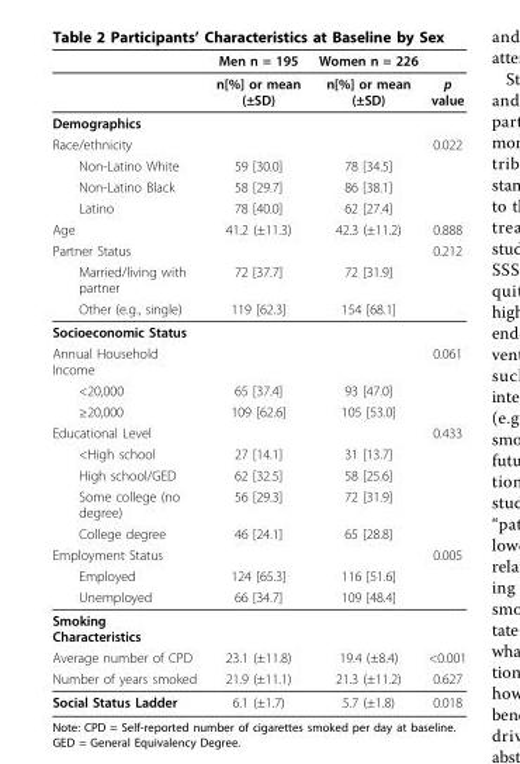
<table><thead><tr><td></td><td>Men n = 195</td><td>Women n = 226</td><td></td></tr></thead><tbody><tr><td></td><td>n[%] or mean (±SD)</td><td>n[%] or mean (±SD)</td><td>p value</td></tr><tr><td colspan="4">Demographics</td></tr><tr><td>Race/ethnicity</td><td></td><td></td><td>0.022</td></tr><tr><td>Non-Latino White</td><td>59 [30.0]</td><td>78 [34.5]</td><td></td></tr><tr><td>Non-Latino Black</td><td>58 [29.7]</td><td>86 [38.1]</td><td></td></tr><tr><td>Latino</td><td>78 [40.0]</td><td>62 [27.4]</td><td></td></tr><tr><td>Age</td><td>41.2 (±11.3)</td><td>42.3 (±11.2)</td><td>0.888</td></tr><tr><td>Partner Status</td><td></td><td></td><td>0.212</td></tr><tr><td>Married/living with partner</td><td>72 [37.7]</td><td>72 [31.9]</td><td></td></tr><tr><td>Other (e.g., single)</td><td>119 [62.3]</td><td>154 [68.1]</td><td></td></tr><tr><td colspan="4">Socioeconomic Status</td></tr><tr><td>Annual Household Income</td><td></td><td></td><td>0.061</td></tr><tr><td>&lt;20,000</td><td>65 [37.4]</td><td>93 [47.0]</td><td></td></tr><tr><td>≥20,000</td><td>109 [62.6]</td><td>105 [53.0]</td><td></td></tr><tr><td>Educational Level</td><td></td><td></td><td>0.433</td></tr><tr><td>&lt;High school</td><td>27 [14.1]</td><td>31 [13.7]</td><td></td></tr><tr><td>High school/GED</td><td>62 [32.5]</td><td>58 [25.6]</td><td></td></tr><tr><td>Some college (no degree)</td><td>56 [29.3]</td><td>72 [31.9]</td><td></td></tr><tr><td>College degree</td><td>46 [24.1]</td><td>65 [28.8]</td><td></td></tr><tr><td>Employment Status</td><td></td><td></td><td>0.005</td></tr><tr><td>Employed</td><td>124 [65.3]</td><td>116 [51.6]</td><td></td></tr><tr><td>Unemployed</td><td>66 [34.7]</td><td>109 [48.4]</td><td></td></tr><tr><td colspan="4">Smoking Characteristics</td></tr><tr><td>Average number of CPD</td><td>23.1 (±11.8)</td><td>19.4 (±8.4)</td><td>&lt;0.001</td></tr><tr><td>Number of years smoked</td><td>21.9 (±11.1)</td><td>21.3 (±11.2)</td><td>0.627</td></tr><tr><td>Social Status Ladder</td><td>6.1 (±1.7)</td><td>5.7 (±1.8)</td><td>0.018</td></tr></tbody></table>